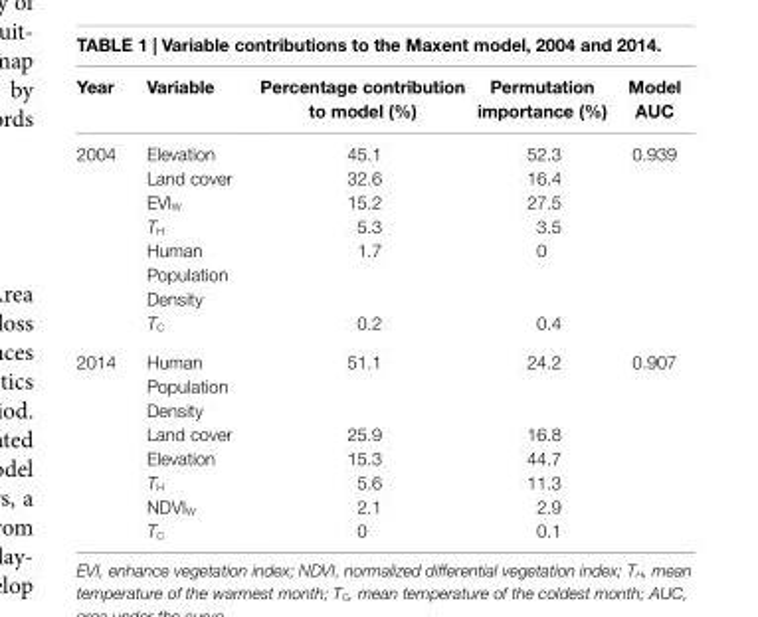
<table><thead><tr><td>Year</td><td>Variable</td><td>Percentage contribution to model (%)</td><td>Permutation importance (%)</td><td>Model aUc</td></tr></thead><tbody><tr><td rowspan="8">2004</td><td>Elevation</td><td>45.1</td><td>52.3</td><td>0.939</td></tr><tr><td>Land cover</td><td>32.6</td><td>16.4</td><td></td></tr><tr><td>EVI<sub>W</sub></td><td>15.2</td><td>27.5</td><td></td></tr><tr><td>T<sub>H</sub></td><td>5.3</td><td>3.5</td><td></td></tr><tr><td>Human</td><td>1.7</td><td>0</td><td></td></tr><tr><td>Population</td><td></td><td></td><td></td></tr><tr><td>Density</td><td></td><td></td><td></td></tr><tr><td>T<sub>C</sub></td><td>0.2</td><td>0.4</td><td></td></tr><tr><td rowspan="8">2014</td><td>Human</td><td>51.1</td><td>24.2</td><td>0.907</td></tr><tr><td>Population</td><td></td><td></td><td></td></tr><tr><td>Density</td><td></td><td></td><td></td></tr><tr><td>Land cover</td><td>25.9</td><td>16.8</td><td></td></tr><tr><td>Elevation</td><td>15.3</td><td>44.7</td><td></td></tr><tr><td>T<sub>H</sub></td><td>5.6</td><td>11.3</td><td></td></tr><tr><td>NDVI<sub>W</sub></td><td>2.1</td><td>2.9</td><td></td></tr><tr><td>T<sub>C</sub></td><td>0</td><td>0.1</td><td></td></tr></tbody></table>